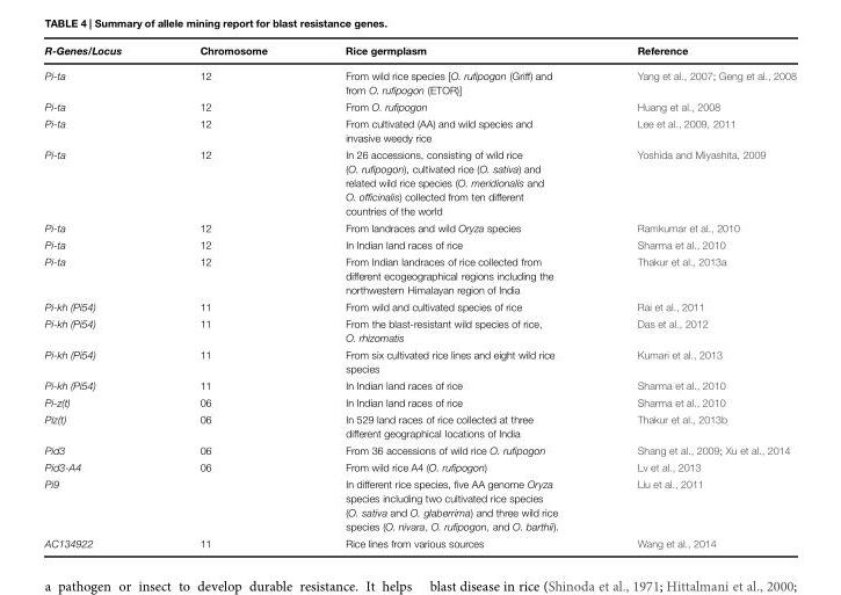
<table><thead><tr><td>R-Genes/Locus</td><td>Chromosome</td><td>Rice germplasm</td><td>Reference</td></tr></thead><tbody><tr><td>Pi-ta</td><td>12</td><td>From wild rice species [O. rufipogon (Griff) and from O. rufipogon (ETOR)]</td><td>Yang et al., 2007; Geng et al., 2008</td></tr><tr><td>Pi-ta</td><td>12</td><td>From O. rufipogon</td><td>Huang et al., 2008</td></tr><tr><td>Pi-ta</td><td>12</td><td>From cultivated (AA) and wild species and invasive weedy rice</td><td>Lee et al., 2009, 2011</td></tr><tr><td>Pi-ta</td><td>12</td><td>In 26 accessions, consisting of wild rice (O. rufipogon), cultivated rice (O. sativa) and related wild rice species (O. meridionalis and O. officinalis) collected from ten different countries of the world</td><td>Yoshida and Miyashita, 2009</td></tr><tr><td>Pi-ta</td><td>12</td><td>From landraces and wild Oryza species</td><td>Ramkumar et al., 2010</td></tr><tr><td>Pi-ta</td><td>12</td><td>In Indian land races of rice</td><td>Sharma et al., 2010</td></tr><tr><td>Pi-ta</td><td>12</td><td>From Indian landraces of rice collected from different ecogeographical regions including the northwestern Himalayan region of India</td><td>Thakur et al., 2013a</td></tr><tr><td>Pi-kh (Pi54)</td><td>11</td><td>From wild and cultivated species of rice</td><td>Rai et al., 2011</td></tr><tr><td>Pi-kh (Pi54)</td><td>11</td><td>From the blast-resistant wild species of rice, O. rhizomatis</td><td>Das et al., 2012</td></tr><tr><td>Pi-kh (Pi54)</td><td>11</td><td>From six cultivated rice lines and eight wild rice species</td><td>Kumari et al., 2013</td></tr><tr><td>Pi-kh (Pi54)</td><td>11</td><td>In Indian land races of rice</td><td>Sharma et al., 2010</td></tr><tr><td>Pi-z(t)</td><td>06</td><td>In Indian land races of rice</td><td>Sharma et al., 2010</td></tr><tr><td>Piz(t)</td><td>06</td><td>In 529 land races of rice collected at three different geographical locations of India</td><td>Thakur et al., 2013b</td></tr><tr><td>Pid3</td><td>06</td><td>From 36 accessions of wild rice O. rufipogon</td><td>Shang et al., 2009; Xu et al., 2014</td></tr><tr><td>Pid3-A4</td><td>06</td><td>From wild rice A4 (O. rufipogon)</td><td>Lv et al., 2013</td></tr><tr><td>Pi9</td><td></td><td>In different rice species, five AA genome Oryza species including two cultivated rice species (O. sativa and O. glaberrima) and three wild rice species (O. nivara, O. rufipogon, and O. barthii).</td><td>Liu et al., 2011</td></tr><tr><td>AC134922</td><td>11</td><td>Rice lines from various sources</td><td>Wang et al., 2014</td></tr></tbody></table>